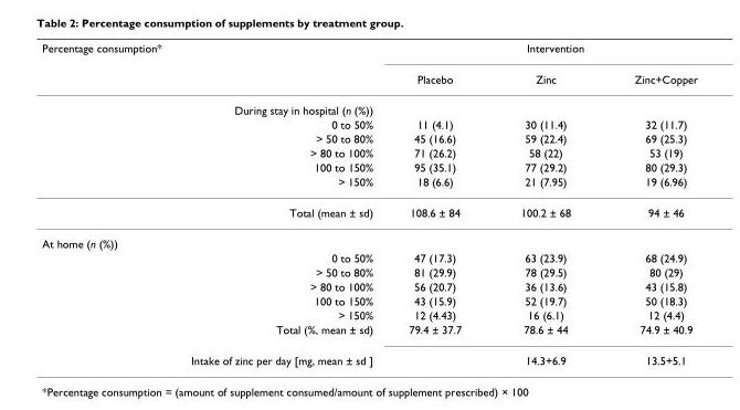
<table><thead><tr><td rowspan="2">Percentage consumption*</td><td colspan="3">Intervention</td></tr><tr><td>Placebo</td><td>Zinc</td><td>Zinc+Copper</td></tr></thead><tbody><tr><td colspan="4">During stay in hospital (n (%))</td></tr><tr><td>0 to 50%</td><td>11 (4.1)</td><td>30 (11.4)</td><td>32 (11.7)</td></tr><tr><td>&gt; 50 to 80%</td><td>45 (16.6)</td><td>59 (22.4)</td><td>69 (25.3)</td></tr><tr><td>&gt; 80 to 100%</td><td>71 (26.2)</td><td>58 (22)</td><td>53 (19)</td></tr><tr><td>100 to 150%</td><td>95 (35.1)</td><td>77 (29.2)</td><td>80 (29.3)</td></tr><tr><td>&gt; 150%</td><td>18 (6.6)</td><td>21 (7.95)</td><td>19 (6.96)</td></tr><tr><td>Total (mean ± sd)</td><td>108.6 ± 84</td><td>100.2 ± 68</td><td>94 ± 46</td></tr><tr><td colspan="4">At home (n (%))</td></tr><tr><td>0 to 50%</td><td>47 (17.3)</td><td>63 (23.9)</td><td>68 (24.9)</td></tr><tr><td>&gt; 50 to 80%</td><td>81 (29.9)</td><td>78 (29.5)</td><td>80 (29)</td></tr><tr><td>&gt; 80 to 100%</td><td>56 (20.7)</td><td>36 (13.6)</td><td>43 (15.8)</td></tr><tr><td>100 to 150%</td><td>43 (15.9)</td><td>52 (19.7)</td><td>50 (18.3)</td></tr><tr><td>&gt; 150%</td><td>12 (4.43)</td><td>16 (6.1)</td><td>12 (4.4)</td></tr><tr><td>Total (%, mean ± sd)</td><td>79.4 ± 37.7</td><td>78.6 ± 44</td><td>74.9 ± 40.9</td></tr><tr><td>Intake of zinc per day [mg, mean ± sd ]</td><td></td><td>14.3+6.9</td><td>13.5+5.1</td></tr></tbody></table>